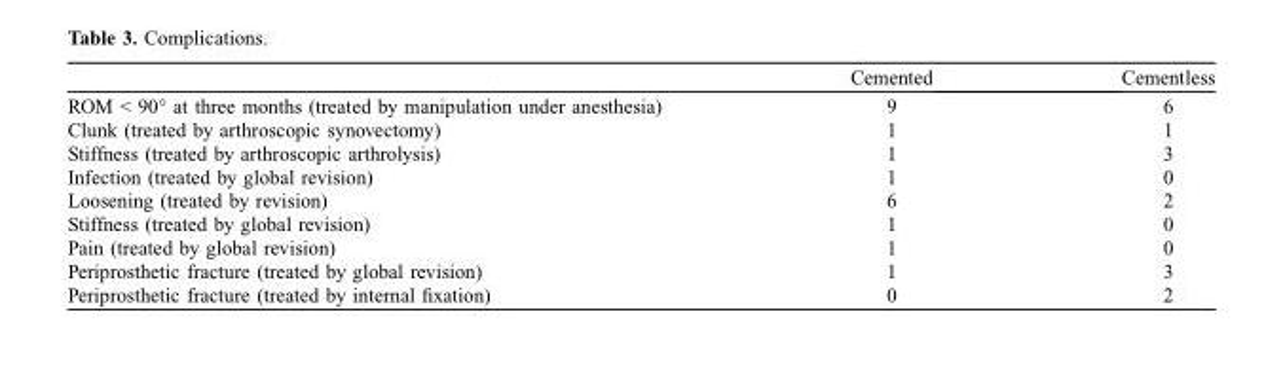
<table><thead><tr><td></td><td>Cemented</td><td>Cementless</td></tr></thead><tbody><tr><td>ROM &lt; 90° at three months (treated by manipulation under anesthesia)</td><td>9</td><td>6</td></tr><tr><td>Clunk (treated by arthroscopic synovectomy)</td><td>1</td><td>1</td></tr><tr><td>Stiffness (treated by arthroscopic arthrolysis)</td><td>1</td><td>3</td></tr><tr><td>Infection (treated by global revision)</td><td>1</td><td>0</td></tr><tr><td>Loosening (treated by revision)</td><td>6</td><td>2</td></tr><tr><td>Stiffness (treated by global revision)</td><td>1</td><td>0</td></tr><tr><td>Pain (treated by global revision)</td><td>1</td><td>0</td></tr><tr><td>Periprosthetic fracture (treated by global revision)</td><td>1</td><td>3</td></tr><tr><td>Periprosthetic fracture (treated by internal fixation)</td><td>0</td><td>2</td></tr></tbody></table>